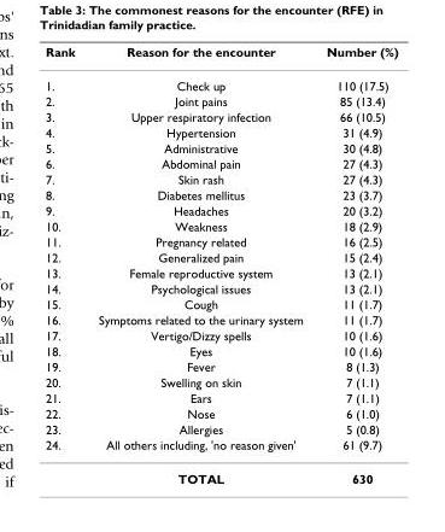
<table><thead><tr><td>Rank</td><td>Reason for the encounter</td><td>Number (%)</td></tr></thead><tbody><tr><td>1.</td><td>Check up</td><td>110 (17.5)</td></tr><tr><td>2.</td><td>Joint pains</td><td>85 (13.4)</td></tr><tr><td>3.</td><td>Upper respiratory infection</td><td>66 (10.5)</td></tr><tr><td>4.</td><td>Hypertension</td><td>31 (4.9)</td></tr><tr><td>5.</td><td>Administrative</td><td>30 (4.8)</td></tr><tr><td>6.</td><td>Abdominal pain</td><td>27 (4.3)</td></tr><tr><td>7.</td><td>Skin rash</td><td>27 (4.3)</td></tr><tr><td>8.</td><td>Diabetes mellitus</td><td>23 (3.7)</td></tr><tr><td>9.</td><td>Headaches</td><td>20 (3.2)</td></tr><tr><td>10.</td><td>Weakness</td><td>18 (2.9)</td></tr><tr><td>11.</td><td>Pregnancy related</td><td>16 (2.5)</td></tr><tr><td>12.</td><td>Generalized pain</td><td>15 (2.4)</td></tr><tr><td>13.</td><td>Female reproductive system</td><td>13 (2.1)</td></tr><tr><td>14.</td><td>Psychological issues</td><td>13 (2.1)</td></tr><tr><td>15.</td><td>Cough</td><td>11 (1.7)</td></tr><tr><td>16.</td><td>Symptoms related to the urinary system</td><td>11 (1.7)</td></tr><tr><td>17.</td><td>Vertigo/Dizzy spells</td><td>10 (1.6)</td></tr><tr><td>18.</td><td>Eyes</td><td>10 (1.6)</td></tr><tr><td>19.</td><td>Fever</td><td>8 (1.3)</td></tr><tr><td>20.</td><td>Swelling on skin</td><td>7 (1.1)</td></tr><tr><td>21.</td><td>Ears</td><td>7 (1.1)</td></tr><tr><td>22.</td><td>Nose</td><td>6 (1.0)</td></tr><tr><td>23.</td><td>Allergies</td><td>5 (0.8)</td></tr><tr><td rowspan="2">24.</td><td>All others including, &#x27;no reason given&#x27;</td><td>61 (9.7)</td></tr><tr><td>TOTAL</td><td>630</td></tr></tbody></table>